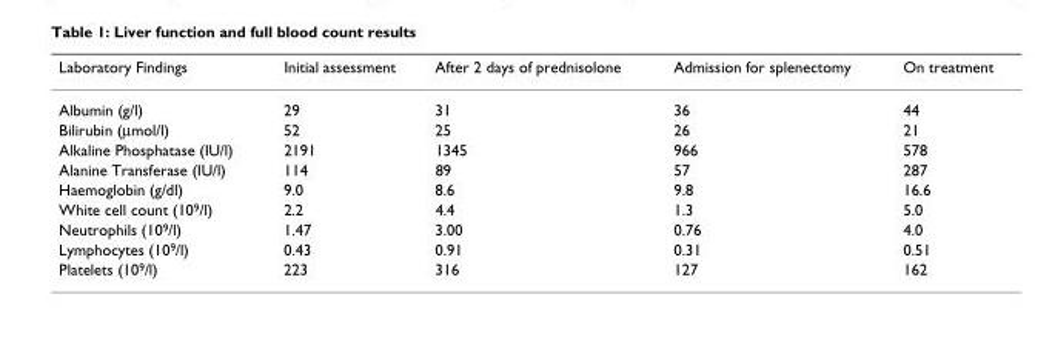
<table><thead><tr><td>Laboratory Findings</td><td>Initial assessment</td><td>After 2 days of prednisolone</td><td>Admission for splenectomy</td><td>On treatment</td></tr></thead><tbody><tr><td>Albumin (g/l)</td><td>29</td><td>31</td><td>36</td><td>44</td></tr><tr><td>Bilirubin (μmol/l)</td><td>52</td><td>25</td><td>26</td><td>21</td></tr><tr><td>Alkaline Phosphatase (IU/l)</td><td>2191</td><td>1345</td><td>966</td><td>578</td></tr><tr><td>Alanine Transferase (IU/l)</td><td>114</td><td>89</td><td>57</td><td>287</td></tr><tr><td>Haemoglobin (g/dl)</td><td>9.0</td><td>8.6</td><td>9.8</td><td>16.6</td></tr><tr><td>White cell count (109/l)</td><td>2.2</td><td>4.4</td><td>1.3</td><td>5.0</td></tr><tr><td>Neutrophils (109/l)</td><td>1.47</td><td>3.00</td><td>0.76</td><td>4.0</td></tr><tr><td>Lymphocytes (109/l)</td><td>0.43</td><td>0.91</td><td>0.31</td><td>0.51</td></tr><tr><td>Platelets (109/l)</td><td>223</td><td>316</td><td>127</td><td>162</td></tr></tbody></table>